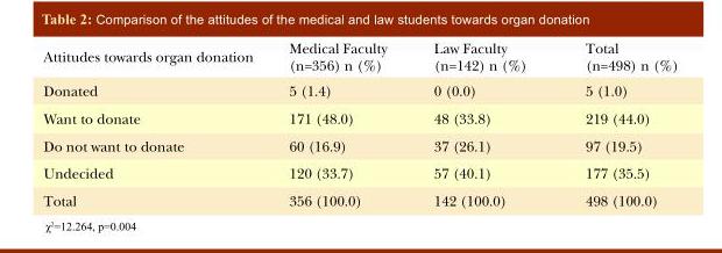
<table><thead><tr><td>Attitudes towards organ donation</td><td>Medical Faculty (n=356) n (%)</td><td>Law Faculty (n=142) n (%)</td><td>Total (n=498) n (%)</td></tr></thead><tbody><tr><td>Donated</td><td>5 (1.4)</td><td>0 (0.0)</td><td>5 (1.0)</td></tr><tr><td>Want to donate</td><td>171 (48.0)</td><td>48 (33.8)</td><td>219 (44.0)</td></tr><tr><td>Do not want to donate</td><td>60 (16.9)</td><td>37 (26.1)</td><td>97 (19.5)</td></tr><tr><td>Undecided</td><td>120 (33.7)</td><td>57 (40.1)</td><td>177 (35.5)</td></tr><tr><td>Total</td><td>356 (100.0)</td><td>142 (100.0)</td><td>498 (100.0)</td></tr></tbody></table>